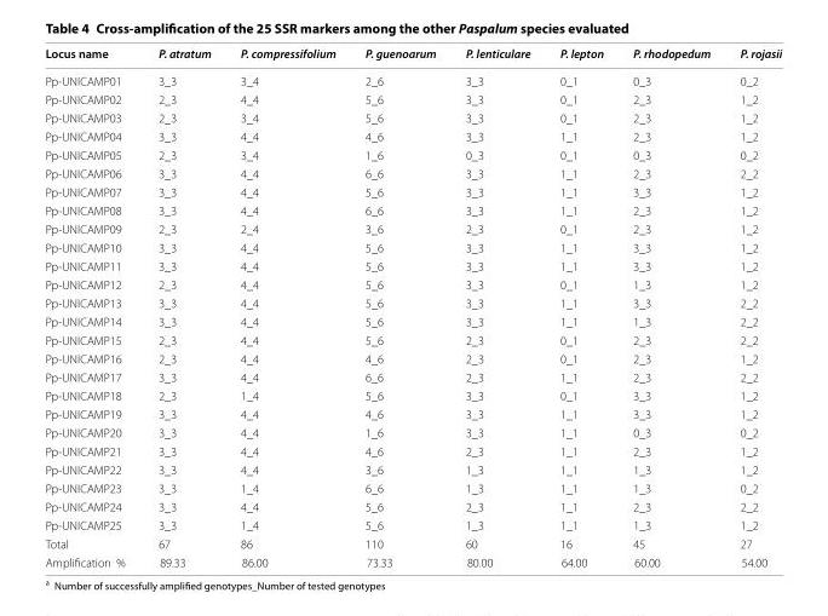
<table><thead><tr><td>Locus name</td><td>P. atratum</td><td>P. compressifolium</td><td>P. guenoarum</td><td>P. lenticulare</td><td>P. lepton</td><td>P. rhodopedum</td><td>P. rojasii</td></tr></thead><tbody><tr><td>Pp-UNICAMP01</td><td>3_3</td><td>3_4</td><td>2_6</td><td>3_3</td><td>0_1</td><td>0_3</td><td>0_2</td></tr><tr><td>Pp-UNICAMP02</td><td>2_3</td><td>4_4</td><td>5_6</td><td>3_3</td><td>0_1</td><td>2_3</td><td>1_2</td></tr><tr><td>Pp-UNICAMP03</td><td>2_3</td><td>3_4</td><td>5_6</td><td>3_3</td><td>0_1</td><td>2_3</td><td>1_2</td></tr><tr><td>Pp-UNICAMP04</td><td>3_3</td><td>4_4</td><td>4_6</td><td>3_3</td><td>1_1</td><td>2_3</td><td>1_2</td></tr><tr><td>Pp-UNICAMP05</td><td>2_3</td><td>3_4</td><td>1_6</td><td>0_3</td><td>0_1</td><td>0_3</td><td>0_2</td></tr><tr><td>Pp-UNICAMP06</td><td>3_3</td><td>4_4</td><td>6_6</td><td>3_3</td><td>1_1</td><td>2_3</td><td>2_2</td></tr><tr><td>Pp-UNICAMP07</td><td>3_3</td><td>4_4</td><td>5_6</td><td>3_3</td><td>1_1</td><td>3_3</td><td>1_2</td></tr><tr><td>Pp-UNICAMP08</td><td>3_3</td><td>4_4</td><td>6_6</td><td>3_3</td><td>1_1</td><td>2_3</td><td>1_2</td></tr><tr><td>Pp-UNICAMP09</td><td>2_3</td><td>2_4</td><td>3_6</td><td>2_3</td><td>0_1</td><td>2_3</td><td>1_2</td></tr><tr><td>Pp-UNICAMP10</td><td>3_3</td><td>4_4</td><td>5_6</td><td>3_3</td><td>1_1</td><td>3_3</td><td>1_2</td></tr><tr><td>Pp-UNICAMP11</td><td>3_3</td><td>4_4</td><td>5_6</td><td>3_3</td><td>1_1</td><td>3_3</td><td>1_2</td></tr><tr><td>Pp-UNICAMP12</td><td>2_3</td><td>4_4</td><td>5_6</td><td>3_3</td><td>0_1</td><td>1_3</td><td>1_2</td></tr><tr><td>Pp-UNICAMP13</td><td>3_3</td><td>4_4</td><td>5_6</td><td>3_3</td><td>1_1</td><td>3_3</td><td>2_2</td></tr><tr><td>Pp-UNICAMP14</td><td>3_3</td><td>4_4</td><td>5_6</td><td>3_3</td><td>1_1</td><td>1_3</td><td>2_2</td></tr><tr><td>Pp-UNICAMP15</td><td>2_3</td><td>4_4</td><td>5_6</td><td>2_3</td><td>0_1</td><td>2_3</td><td>2_2</td></tr><tr><td>Pp-UNICAMP16</td><td>2_3</td><td>4_4</td><td>4_6</td><td>2_3</td><td>0_1</td><td>2_3</td><td>1_2</td></tr><tr><td>Pp-UNICAMP17</td><td>3_3</td><td>4_4</td><td>6_6</td><td>2_3</td><td>1_1</td><td>2_3</td><td>2_2</td></tr><tr><td>Pp-UNICAMP18</td><td>2_3</td><td>1_4</td><td>5_6</td><td>3_3</td><td>0_1</td><td>3_3</td><td>1_2</td></tr><tr><td>Pp-UNICAMP19</td><td>3_3</td><td>4_4</td><td>4_6</td><td>3_3</td><td>1_1</td><td>3_3</td><td>1_2</td></tr><tr><td>Pp-UNICAMP20</td><td>3_3</td><td>4_4</td><td>1_6</td><td>3_3</td><td>1_1</td><td>0_3</td><td>0_2</td></tr><tr><td>Pp-UNICAMP21</td><td>3_3</td><td>4_4</td><td>4_6</td><td>2_3</td><td>1_1</td><td>2_3</td><td>1_2</td></tr><tr><td>Pp-UNICAMP22</td><td>3_3</td><td>4_4</td><td>3_6</td><td>1_3</td><td>1_1</td><td>1_3</td><td>1_2</td></tr><tr><td>Pp-UNICAMP23</td><td>3_3</td><td>1_4</td><td>6_6</td><td>1_3</td><td>1_1</td><td>1_3</td><td>0_2</td></tr><tr><td>Pp-UNICAMP24</td><td>3_3</td><td>4_4</td><td>5_6</td><td>2_3</td><td>1_1</td><td>2_3</td><td>2_2</td></tr><tr><td>Pp-UNICAMP25</td><td>3_3</td><td>1_4</td><td>5_6</td><td>1_3</td><td>1_1</td><td>1_3</td><td>1_2</td></tr><tr><td>Total</td><td>67</td><td>86</td><td>110</td><td>60</td><td>16</td><td>45</td><td>27</td></tr><tr><td>Amplification %</td><td>89.33</td><td>86.00</td><td>73.33</td><td>80.00</td><td>64.00</td><td>60.00</td><td>54.00</td></tr></tbody></table>